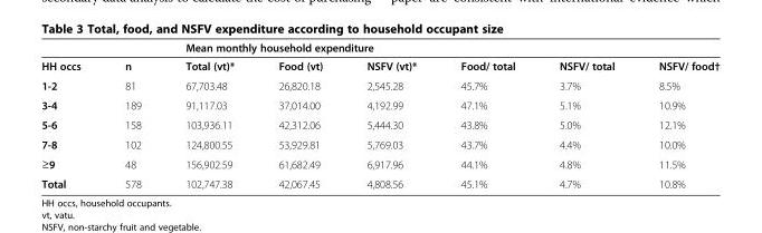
<table><thead><tr><td rowspan="2">HH occs</td><td rowspan="2">n</td><td colspan="6">Mean monthly household expenditure</td></tr><tr><td>Total (vt)*</td><td>Food (vt)</td><td>NSFV (vt)*</td><td>Food/ total</td><td>NSFV/ total</td><td>NSFV/ food†</td></tr></thead><tbody><tr><td>1-2</td><td>81</td><td>67,703.48</td><td>26,820.18</td><td>2,545.28</td><td>45.7%</td><td>3.7%</td><td>8.5%</td></tr><tr><td>3-4</td><td>189</td><td>91,117.03</td><td>37,014.00</td><td>4,192.99</td><td>47.1%</td><td>5.1%</td><td>10.9%</td></tr><tr><td>5-6</td><td>158</td><td>103,936.11</td><td>42,312.06</td><td>5,444.30</td><td>43.8%</td><td>5.0%</td><td>12.1%</td></tr><tr><td>7-8</td><td>102</td><td>124,800.55</td><td>53,929.81</td><td>5,769.03</td><td>43.7%</td><td>4.4%</td><td>10.0%</td></tr><tr><td>≥9</td><td>48</td><td>156,902.59</td><td>61,682.49</td><td>6,917.96</td><td>44.1%</td><td>4.8%</td><td>11.5%</td></tr><tr><td>Total</td><td>578</td><td>102,747.38</td><td>42,067.45</td><td>4,808.56</td><td>45.1%</td><td>4.7%</td><td>10.8%</td></tr></tbody></table>